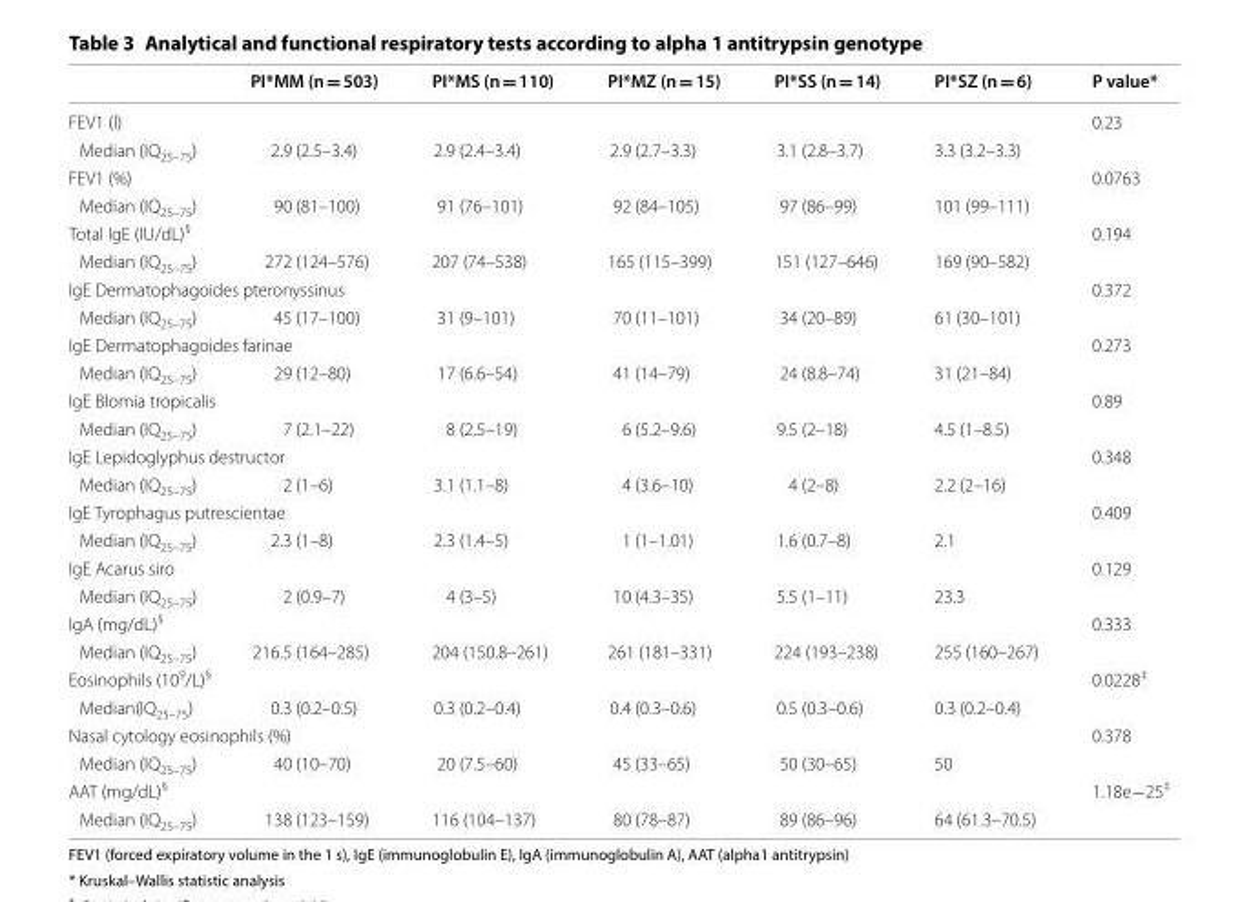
<table><thead><tr><td></td><td>PI*MM (n = 503)</td><td>PI*MS (n = 110)</td><td>PI*MZ (n = 15)</td><td>PI*SS (n = 14)</td><td>PI*SZ (n = 6)</td><td>P value*</td></tr></thead><tbody><tr><td colspan="6">FEV1 (l)</td><td rowspan="2">0.23</td></tr><tr><td>Median (IQ<sub>25–75</sub>)</td><td>2.9 (2.5–3.4)</td><td>2.9 (2.4–3.4)</td><td>2.9 (2.7–3.3)</td><td>3.1 (2.8–3.7)</td><td>3.3 (3.2–3.3)</td></tr><tr><td colspan="6">FEV1 (%)</td><td rowspan="2">0.0763</td></tr><tr><td>Median (IQ<sub>25–75</sub>)</td><td>90 (81–100)</td><td>91 (76–101)</td><td>92 (84–105)</td><td>97 (86–99)</td><td>101 (99–111)</td></tr><tr><td colspan="6">Total IgE (IU/dL)<sup>§</sup></td><td rowspan="2">0.194</td></tr><tr><td>Median (IQ<sub>25–75</sub>)</td><td>272 (124–576)</td><td>207 (74–538)</td><td>165 (115–399)</td><td>151 (127–646)</td><td>169 (90–582)</td></tr><tr><td colspan="6">IgE Dermatophagoides pteronyssinus</td><td rowspan="2">0.372</td></tr><tr><td>Median (IQ<sub>25–75</sub>)</td><td>45 (17–100)</td><td>31 (9–101)</td><td>70 (11–101)</td><td>34 (20–89)</td><td>61 (30–101)</td></tr><tr><td colspan="6">IgE Dermatophagoides farinae</td><td rowspan="2">0.273</td></tr><tr><td>Median (IQ<sub>25–75</sub>)</td><td>29 (12–80)</td><td>17 (6.6–54)</td><td>41 (14–79)</td><td>24 (8.8–74)</td><td>31 (21–84)</td></tr><tr><td colspan="6">IgE Blomia tropicalis</td><td rowspan="2">0.89</td></tr><tr><td>Median (IQ<sub>25–75</sub>)</td><td>7 (2.1–22)</td><td>8 (2.5–19)</td><td>6 (5.2–9.6)</td><td>9.5 (2–18)</td><td>4.5 (1–8.5)</td></tr><tr><td colspan="6">IgE Lepidoglyphus destructor</td><td rowspan="2">0.348</td></tr><tr><td>Median (IQ<sub>25–75</sub>)</td><td>2 (1–6)</td><td>3.1 (1.1–8)</td><td>4 (3.6–10)</td><td>4 (2–8)</td><td>2.2 (2–16)</td></tr><tr><td colspan="6">IgE Tyrophagus putrescientae</td><td rowspan="2">0.409</td></tr><tr><td>Median (IQ<sub>25–75</sub>)</td><td>2.3 (1–8)</td><td>2.3 (1.4–5)</td><td>1 (1–1.01)</td><td>1.6 (0.7–8)</td><td>2.1</td></tr><tr><td colspan="6">IgE Acarus siro</td><td rowspan="2">0.129</td></tr><tr><td>Median (IQ<sub>25–75</sub>)</td><td>2 (0.9–7)</td><td>4 (3–5)</td><td>10 (4.3–35)</td><td>5.5 (1–11)</td><td>23.3</td></tr><tr><td colspan="6">IgA (mg/dL)<sup>§</sup></td><td rowspan="2">0.333</td></tr><tr><td>Median (IQ<sub>25–75</sub>)</td><td>216.5 (164–285)</td><td>204 (150.8–261)</td><td>261 (181–331)</td><td>224 (193–238)</td><td>255 (160–267)</td></tr><tr><td colspan="6">Eosinophils (10<sup>9</sup>/L)<sup>§</sup></td><td rowspan="2">0.0228<sup>‡</sup></td></tr><tr><td>Median(IQ<sub>25–75</sub>)</td><td>0.3 (0.2–0.5)</td><td>0.3 (0.2–0.4)</td><td>0.4 (0.3–0.6)</td><td>0.5 (0.3–0.6)</td><td>0.3 (0.2–0.4)</td></tr><tr><td colspan="6">Nasal cytology eosinophils (%)</td><td rowspan="2">0.378</td></tr><tr><td>Median (IQ<sub>25–75</sub>)</td><td>40 (10–70)</td><td>20 (7.5–60)</td><td>45 (33–65)</td><td>50 (30–65)</td><td>50</td></tr><tr><td colspan="6">AAT (mg/dL)<sup>§</sup></td><td rowspan="2">1.18e−25<sup>‡</sup></td></tr><tr><td>Median (IQ<sub>25–75</sub>)</td><td>138 (123–159)</td><td>116 (104–137)</td><td>80 (78–87)</td><td>89 (86–96)</td><td>64 (61.3–70.5)</td></tr></tbody></table>